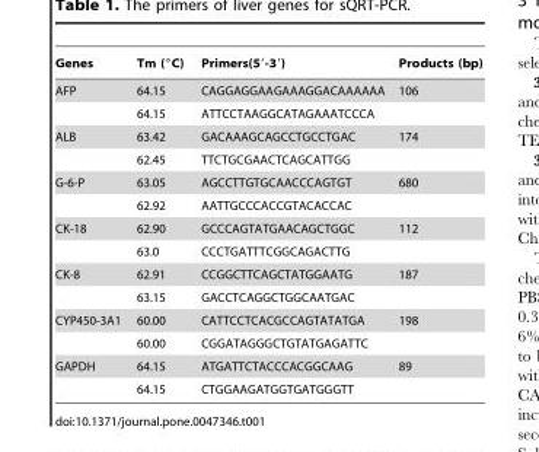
<table><thead><tr><td>Genes</td><td>Tm (°C)</td><td>Primers(5′-3′)</td><td>Products (bp)</td></tr></thead><tbody><tr><td rowspan="2">AFP</td><td>64.15</td><td>CAGGAGGAAGAAAGGACAAAAAA</td><td>106</td></tr><tr><td>64.15</td><td>ATTCCTAAGGCATAGAAATCCCA</td><td></td></tr><tr><td rowspan="2">ALB</td><td>63.42</td><td>GACAAAGCAGCCTGCCTGAC</td><td>174</td></tr><tr><td>62.45</td><td>TTCTGCGAACTCAGCATTGG</td><td></td></tr><tr><td rowspan="2">G-6-P</td><td>63.05</td><td>AGCCTTGTGCAACCCAGTGT</td><td>680</td></tr><tr><td>62.92</td><td>AATTGCCCACCGTACACCAC</td><td></td></tr><tr><td rowspan="2">CK-18</td><td>62.90</td><td>GCCCAGTATGAACAGCTGGC</td><td>112</td></tr><tr><td>63.0</td><td>CCCTGATTTCGGCAGACTTG</td><td></td></tr><tr><td rowspan="2">CK-8</td><td>62.91</td><td>CCGGCTTCAGCTATGGAATG</td><td>187</td></tr><tr><td>63.15</td><td>GACCTCAGGCTGGCAATGAC</td><td></td></tr><tr><td rowspan="2">CYP450-3A1</td><td>60.00</td><td>CATTCCTCACGCCAGTATATGA</td><td>198</td></tr><tr><td>60.00</td><td>CGGATAGGGCTGTATGAGATTC</td><td></td></tr><tr><td rowspan="2">GAPDH</td><td>64.15</td><td>ATGATTCTACCCACGGCAAG</td><td>89</td></tr><tr><td>64.15</td><td>CTGGAAGATGGTGATGGGTT</td><td></td></tr></tbody></table>